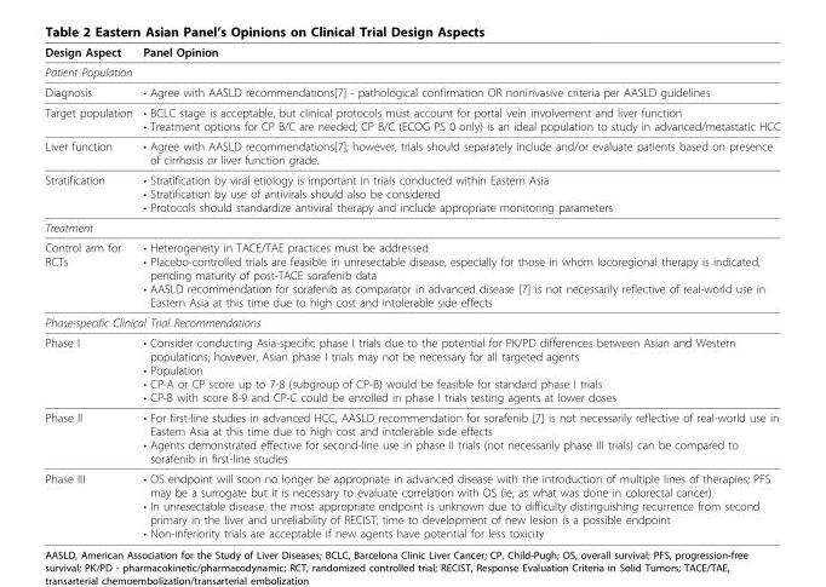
<table><thead><tr><td>Design Aspect</td><td>Panel Opinion</td></tr></thead><tbody><tr><td colspan="2">Patient Population</td></tr><tr><td>Diagnosis</td><td>• Agree with AASLD recommendations[7] - pathological confirmation OR noninvasive criteria per AASLD guidelines</td></tr><tr><td>Target population</td><td>• BCLC stage is acceptable, but clinical protocols must account for portal vein involvement and liver function • Treatment options for CP B/C are needed; CP B/C (ECOG PS 0 only) is an ideal population to study in advanced/metastatic HCC</td></tr><tr><td>Liver function</td><td>• Agree with AASLD recommendations[7]; however, trials should separately include and/or evaluate patients based on presence of cirrhosis or liver function grade.</td></tr><tr><td>Stratification</td><td>• Stratification by viral etiology is important in trials conducted within Eastern Asia • Stratification by use of antivirals should also be considered • Protocols should standardize antiviral therapy and include appropriate monitoring parameters</td></tr><tr><td colspan="2">Treatment</td></tr><tr><td>Control arm for RCTs</td><td>• Heterogeneity in TACE/TAE practices must be addressed • Placebo-controlled trials are feasible in unresectable disease, especially for those in whom locoregional therapy is indicated, pending maturity of post-TACE sorafenib data • AASLD recommendation for sorafenib as comparator in advanced disease [7] is not necessarily reflective of real-world use in Eastern Asia at this time due to high cost and intolerable side effects</td></tr><tr><td colspan="2">Phase-specific Clinical Trial Recommendations</td></tr><tr><td>Phase I</td><td>• Consider conducting Asia-specific phase I trials due to the potential for PK/PD differences between Asian and Western populations; however, Asian phase I trials may not be necessary for all targeted agents • Population • CP-A or CP score up to 7-8 (subgroup of CP-B) would be feasible for standard phase I trials • CP-B with score 8-9 and CP-C could be enrolled in phase I trials testing agents at lower doses</td></tr><tr><td>Phase II</td><td>• For first-line studies in advanced HCC, AASLD recommendation for sorafenib [7] is not necessarily reflective of real-world use in Eastern Asia at this time due to high cost and intolerable side effects • Agents demonstrated effective for second-line use in phase II trials (not necessarily phase III trials) can be compared to sorafenib in first-line studies</td></tr><tr><td>Phase III</td><td>• OS endpoint will soon no longer be appropriate in advanced disease with the introduction of multiple lines of therapies; PFS may be a surrogate but it is necessary to evaluate correlation with OS (ie, as what was done in colorectal cancer) • In unresectable disease, the most appropriate endpoint is unknown due to difficulty distinguishing recurrence from second primary in the liver and unreliability of RECIST; time to development of new lesion is a possible endpoint • Non-inferiority trials are acceptable if new agents have potential for less toxicity</td></tr></tbody></table>